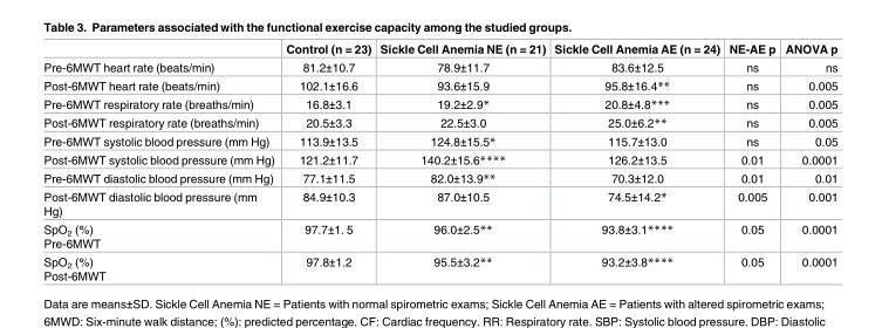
<table><thead><tr><td></td><td>Control (n = 23)</td><td>Sickle Cell Anemia NE (n = 21)</td><td>Sickle Cell Anemia AE (n = 24)</td><td>NE-AE p</td><td>ANOVA p</td></tr></thead><tbody><tr><td>Pre-6MWT heart rate (beats/min)</td><td>81.2±10.7</td><td>78.9±11.7</td><td>83.6±12.5</td><td>ns</td><td>ns</td></tr><tr><td>Post-6MWT heart rate (beats/min)</td><td>102.1±16.6</td><td>93.6±15.9</td><td>95.8±16.4**</td><td>ns</td><td>0.005</td></tr><tr><td>Pre-6MWT respiratory rate (breaths/min)</td><td>16.8±3.1</td><td>19.2±2.9*</td><td>20.8±4.8***</td><td>ns</td><td>0.005</td></tr><tr><td>Post-6MWT respiratory rate (breaths/min)</td><td>20.5±3.3</td><td>22.5±3.0</td><td>25.0±6.2**</td><td>ns</td><td>0.005</td></tr><tr><td>Pre-6MWT systolic blood pressure (mm Hg)</td><td>113.9±13.5</td><td>124.8±15.5*</td><td>115.7±13.0</td><td>ns</td><td>0.05</td></tr><tr><td>Post-6MWT systolic blood pressure (mm Hg)</td><td>121.2±11.7</td><td>140.2±15.6****</td><td>126.2±13.5</td><td>0.01</td><td>0.0001</td></tr><tr><td>Pre-6MWT diastolic blood pressure (mm Hg)</td><td>77.1±11.5</td><td>82.0±13.9**</td><td>70.3±12.0</td><td>0.01</td><td>0.01</td></tr><tr><td>Post-6MWT diastolic blood pressure (mm Hg)</td><td>84.9±10.3</td><td>87.0±10.5</td><td>74.5±14.2*</td><td>0.005</td><td>0.001</td></tr><tr><td>SpO<sub>2</sub> (%) Pre-6MWT</td><td>97.7±1. 5</td><td>96.0±2.5**</td><td>93.8±3.1****</td><td>0.05</td><td>0.0001</td></tr><tr><td>SpO<sub>2</sub> (%) Post-6MWT</td><td>97.8±1.2</td><td>95.5±3.2**</td><td>93.2±3.8****</td><td>0.05</td><td>0.0001</td></tr></tbody></table>